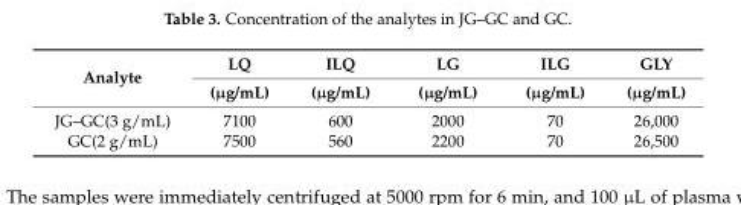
<table><thead><tr><td rowspan="2">Analyte</td><td rowspan="2">LQ (µg/mL)</td><td rowspan="2">ILQ (µg/mL)</td><td rowspan="2">LG (µg/mL)</td><td rowspan="2">ILG (µg/mL)</td><td rowspan="2">GLY (µg/mL)</td></tr><tr></tr></thead><tbody><tr><td>JG–GC(3 g/mL)</td><td>7100</td><td>600</td><td>2000</td><td>70</td><td>26,000</td></tr><tr><td>GC(2 g/mL)</td><td>7500</td><td>560</td><td>2200</td><td>70</td><td>26,500</td></tr></tbody></table>